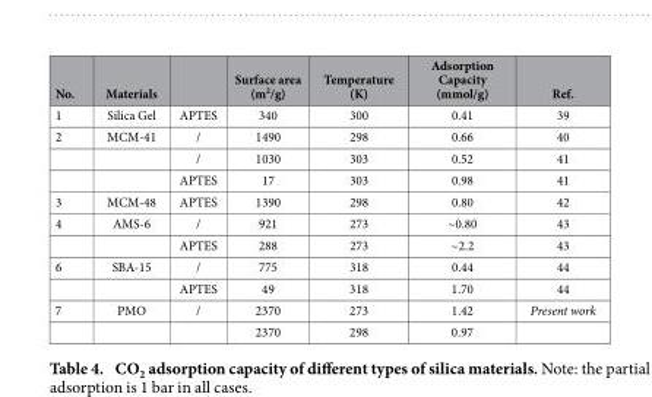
<table><thead><tr><td>No.</td><td>Materials</td><td></td><td>Surface area (m<sup>2</sup>/g)</td><td>Temperature (K)</td><td>Adsorption Capacity (mmol/g)</td><td>Ref.</td></tr></thead><tbody><tr><td>1</td><td>Silica Gel</td><td>APTES</td><td>340</td><td>300</td><td>0.41</td><td>39</td></tr><tr><td rowspan="3">2</td><td>MCM-41</td><td>/</td><td>1490</td><td>298</td><td>0.66</td><td>40</td></tr><tr><td></td><td>/</td><td>1030</td><td>303</td><td>0.52</td><td>41</td></tr><tr><td></td><td>APTES</td><td>17</td><td>303</td><td>0.98</td><td>41</td></tr><tr><td>3</td><td>MCM-48</td><td>APTES</td><td>1390</td><td>298</td><td>0.80</td><td>42</td></tr><tr><td rowspan="2">4</td><td>AMS-6</td><td>/</td><td>921</td><td>273</td><td>~0.80</td><td>43</td></tr><tr><td></td><td>APTES</td><td>288</td><td>273</td><td>~2.2</td><td>43</td></tr><tr><td rowspan="2">6</td><td>SBA-15</td><td>/</td><td>775</td><td>318</td><td>0.44</td><td>44</td></tr><tr><td></td><td>APTES</td><td>49</td><td>318</td><td>1.70</td><td>44</td></tr><tr><td rowspan="2">7</td><td>PMO</td><td>/</td><td>2370</td><td>273</td><td>1.42</td><td>Present work</td></tr><tr><td></td><td></td><td>2370</td><td>298</td><td>0.97</td><td></td></tr></tbody></table>